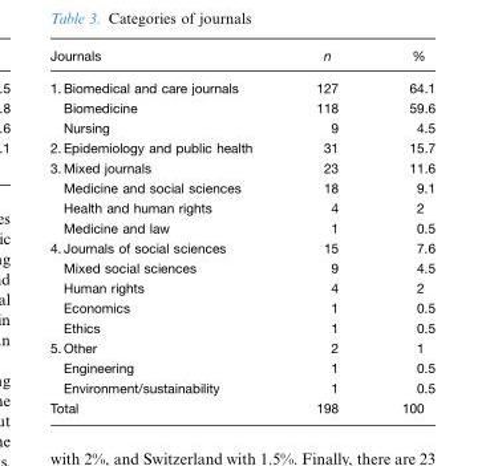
<table><thead><tr><td>Journals</td><td>n</td><td>%</td></tr></thead><tbody><tr><td>1.Biomedical and care journals</td><td>127</td><td>64.1</td></tr><tr><td>Biomedicine</td><td>118</td><td>59.6</td></tr><tr><td>Nursing</td><td>9</td><td>4.5</td></tr><tr><td>2.Epidemiology and public health</td><td>31</td><td>15.7</td></tr><tr><td>3.Mixed journals</td><td>23</td><td>11.6</td></tr><tr><td>Medicine and social sciences</td><td>18</td><td>9.1</td></tr><tr><td>Health and human rights</td><td>4</td><td>2</td></tr><tr><td>Medicine and law</td><td>1</td><td>0.5</td></tr><tr><td>4.Journals of social sciences</td><td>15</td><td>7.6</td></tr><tr><td>Mixed social sciences</td><td>9</td><td>4.5</td></tr><tr><td>Human rights</td><td>4</td><td>2</td></tr><tr><td>Economics</td><td>1</td><td>0.5</td></tr><tr><td>Ethics</td><td>1</td><td>0.5</td></tr><tr><td>5.Other</td><td>2</td><td>1</td></tr><tr><td>Engineering</td><td>1</td><td>0.5</td></tr><tr><td>Environment/sustainability</td><td>1</td><td>0.5</td></tr><tr><td>Total</td><td>198</td><td>100</td></tr></tbody></table>